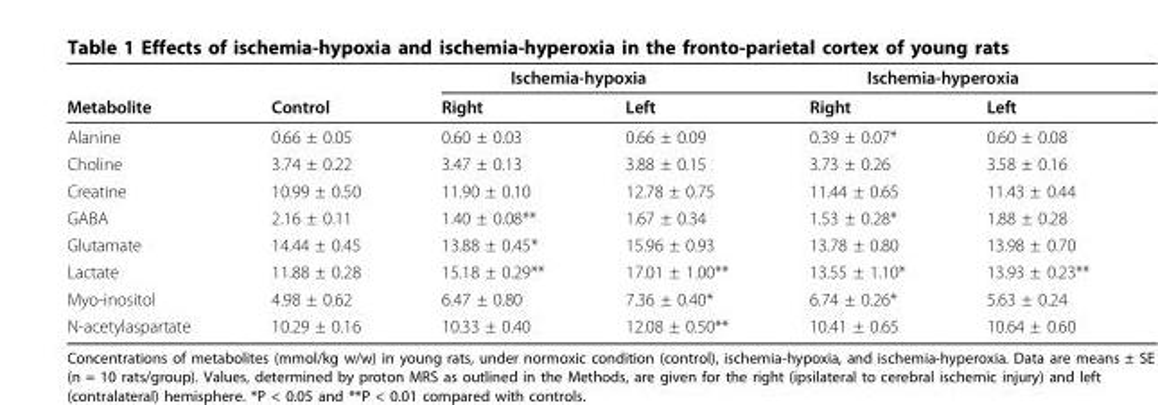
<table><thead><tr><td rowspan="2">Metabolite</td><td rowspan="2">Control</td><td colspan="2">Ischemia-hypoxia</td><td colspan="2">Ischemia-hyperoxia</td></tr><tr><td>Right</td><td>Left</td><td>Right</td><td>Left</td></tr></thead><tbody><tr><td>Alanine</td><td>0.66 ± 0.05</td><td>0.60 ± 0.03</td><td>0.66 ± 0.09</td><td>0.39 ± 0.07*</td><td>0.60 ± 0.08</td></tr><tr><td>Choline</td><td>3.74 ± 0.22</td><td>3.47 ± 0.13</td><td>3.88 ± 0.15</td><td>3.73 ± 0.26</td><td>3.58 ± 0.16</td></tr><tr><td>Creatine</td><td>10.99 ± 0.50</td><td>11.90 ± 0.10</td><td>12.78 ± 0.75</td><td>11.44 ± 0.65</td><td>11.43 ± 0.44</td></tr><tr><td>GABA</td><td>2.16 ± 0.11</td><td>1.40 ± 0.08**</td><td>1.67 ± 0.34</td><td>1.53 ± 0.28*</td><td>1.88 ± 0.28</td></tr><tr><td>Glutamate</td><td>14.44 ± 0.45</td><td>13.88 ± 0.45*</td><td>15.96 ± 0.93</td><td>13.78 ± 0.80</td><td>13.98 ± 0.70</td></tr><tr><td>Lactate</td><td>11.88 ± 0.28</td><td>15.18 ± 0.29**</td><td>17.01 ± 1.00**</td><td>13.55 ± 1.10*</td><td>13.93 ± 0.23**</td></tr><tr><td>Myo-inositol</td><td>4.98 ± 0.62</td><td>6.47 ± 0.80</td><td>7.36 ± 0.40*</td><td>6.74 ± 0.26*</td><td>5.63 ± 0.24</td></tr><tr><td>N-acetylaspartate</td><td>10.29 ± 0.16</td><td>10.33 ± 0.40</td><td>12.08 ± 0.50**</td><td>10.41 ± 0.65</td><td>10.64 ± 0.60</td></tr></tbody></table>